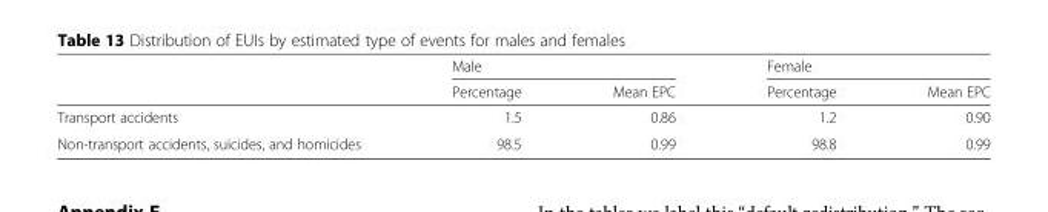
<table><thead><tr><td rowspan="2"></td><td colspan="2">Male</td><td colspan="2">Female</td></tr><tr><td>Percentage</td><td>Mean EPC</td><td>Percentage</td><td>Mean EPC</td></tr></thead><tbody><tr><td>Transport accidents</td><td>1.5</td><td>0.86</td><td>1.2</td><td>0.90</td></tr><tr><td>Non-transport accidents, suicides, and homicides</td><td>98.5</td><td>0.99</td><td>98.8</td><td>0.99</td></tr></tbody></table>